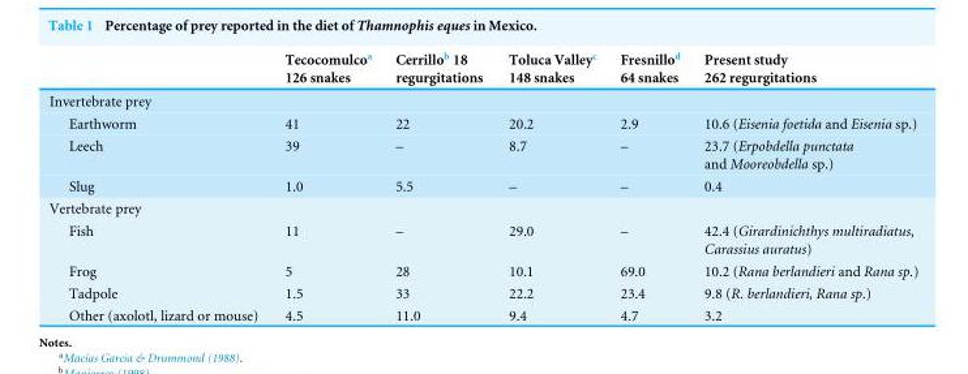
<table><thead><tr><td></td><td>Tecocomulco<sup>a</sup> 126 snakes</td><td>Cerrillo<sup>b</sup> 18 regurgitations</td><td>Toluca Valley<sup>c</sup> 148 snakes</td><td>Fresnillo<sup>d</sup> 64 snakes</td><td>Present study 262 regurgitations</td></tr></thead><tbody><tr><td colspan="6">Invertebrate prey</td></tr><tr><td>Earthworm</td><td>41</td><td>22</td><td>20.2</td><td>2.9</td><td>10.6 (Eisenia foetida and Eisenia sp.)</td></tr><tr><td>Leech</td><td>39</td><td>–</td><td>8.7</td><td>–</td><td>23.7 (Erpobdella punctata and Mooreobdella sp.)</td></tr><tr><td>Slug</td><td>1.0</td><td>5.5</td><td>–</td><td>–</td><td>0.4</td></tr><tr><td colspan="6">Vertebrate prey</td></tr><tr><td>Fish</td><td>11</td><td>–</td><td>29.0</td><td>–</td><td>42.4 (Girardinichthys multiradiatus, Carassius auratus)</td></tr><tr><td>Frog</td><td>5</td><td>28</td><td>10.1</td><td>69.0</td><td>10.2 (Rana berlandieri and Rana sp.)</td></tr><tr><td>Tadpole</td><td>1.5</td><td>33</td><td>22.2</td><td>23.4</td><td>9.8 (R. berlandieri, Rana sp.)</td></tr><tr><td>Other (axolotl, lizard or mouse)</td><td>4.5</td><td>11.0</td><td>9.4</td><td>4.7</td><td>3.2</td></tr></tbody></table>